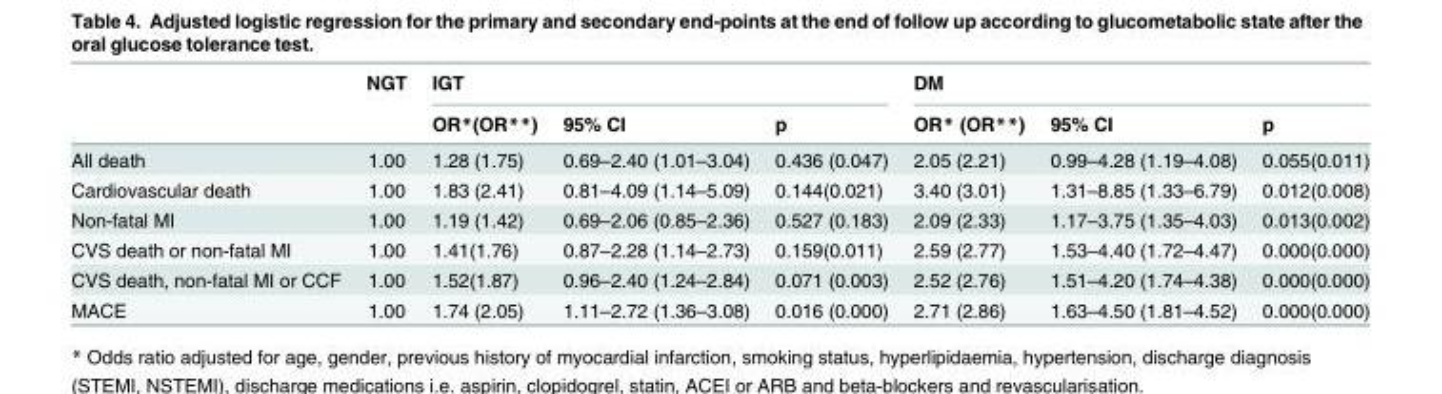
<table><thead><tr><td rowspan="2"></td><td rowspan="2">NGT</td><td colspan="3">IGT</td><td colspan="3">DM</td></tr><tr><td>OR*(OR**)</td><td>95% CI</td><td>p</td><td>OR* (OR**)</td><td>95% CI</td><td>p</td></tr></thead><tbody><tr><td>All death</td><td>1.00</td><td>1.28 (1.75)</td><td>0.69–2.40 (1.01–3.04)</td><td>0.436 (0.047)</td><td>2.05 (2.21)</td><td>0.99–4.28 (1.19–4.08)</td><td>0.055(0.011)</td></tr><tr><td>Cardiovascular death</td><td>1.00</td><td>1.83 (2.41)</td><td>0.81–4.09 (1.14–5.09)</td><td>0.144(0.021)</td><td>3.40 (3.01)</td><td>1.31–8.85 (1.33–6.79)</td><td>0.012(0.008)</td></tr><tr><td>Non-fatal MI</td><td>1.00</td><td>1.19 (1.42)</td><td>0.69–2.06 (0.85–2.36)</td><td>0.527 (0.183)</td><td>2.09 (2.33)</td><td>1.17–3.75 (1.35–4.03)</td><td>0.013(0.002)</td></tr><tr><td>CVS death or non-fatal MI</td><td>1.00</td><td>1.41(1.76)</td><td>0.87–2.28 (1.14–2.73)</td><td>0.159(0.011)</td><td>2.59 (2.77)</td><td>1.53–4.40 (1.72–4.47)</td><td>0.000(0.000)</td></tr><tr><td>CVS death, non-fatal MI or CCF</td><td>1.00</td><td>1.52(1.87)</td><td>0.96–2.40 (1.24–2.84)</td><td>0.071 (0.003)</td><td>2.52 (2.76)</td><td>1.51–4.20 (1.74–4.38)</td><td>0.000(0.000)</td></tr><tr><td>MACE</td><td>1.00</td><td>1.74 (2.05)</td><td>1.11–2.72 (1.36–3.08)</td><td>0.016 (0.000)</td><td>2.71 (2.86)</td><td>1.63–4.50 (1.81–4.52)</td><td>0.000(0.000)</td></tr></tbody></table>